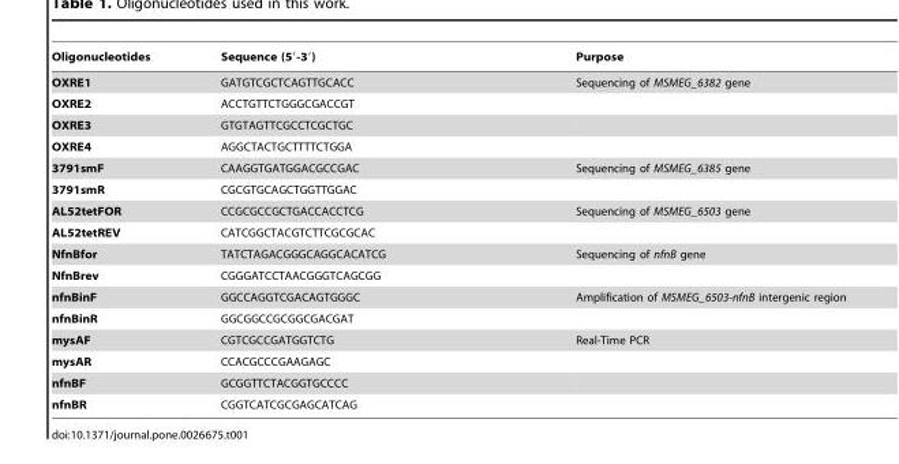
<table><thead><tr><td>Oligonucleotides</td><td>Sequence (5′-3′)</td><td>Purpose</td></tr></thead><tbody><tr><td>OXRE1</td><td>GATGTCGCTCAGTTGCACC</td><td>Sequencing of MSMEG_6382 gene</td></tr><tr><td>OXRE2</td><td>ACCTGTTCTGGGCGACCGT</td><td></td></tr><tr><td>OXRE3</td><td>GTGTAGTTCGCCTCGCTGC</td><td></td></tr><tr><td>OXRE4</td><td>AGGCTACTGCTTTTCTGGA</td><td></td></tr><tr><td>3791smF</td><td>CAAGGTGATGGACGCCGAC</td><td>Sequencing of MSMEG_6385 gene</td></tr><tr><td>3791smR</td><td>CGCGTGCAGCTGGTTGGAC</td><td></td></tr><tr><td>AL52tetFOR</td><td>CCGCGCCGCTGACCACCTCG</td><td>Sequencing of MSMEG_6503 gene</td></tr><tr><td>AL52tetREV</td><td>CATCGGCTACGTCTTCGCGCAC</td><td></td></tr><tr><td>NfnBfor</td><td>TATCTAGACGGGCAGGCACATCG</td><td>Sequencing of nfnB gene</td></tr><tr><td>NfnBrev</td><td>CGGGATCCTAACGGGTCAGCGG</td><td></td></tr><tr><td>nfnBinF</td><td>GGCCAGGTCGACAGTGGGC</td><td>Amplification of MSMEG_6503-nfnB intergenic region</td></tr><tr><td>nfnBinR</td><td>GGCGGCCGCGGCGACGAT</td><td></td></tr><tr><td>mysAF</td><td>CGTCGCCGATGGTCTG</td><td>Real-Time PCR</td></tr><tr><td>mysAR</td><td>CCACGCCCGAAGAGC</td><td></td></tr><tr><td>nfnBF</td><td>GCGGTTCTACGGTGCCCC</td><td></td></tr><tr><td>nfnBR</td><td>CGGTCATCGCGAGCATCAG</td><td></td></tr></tbody></table>